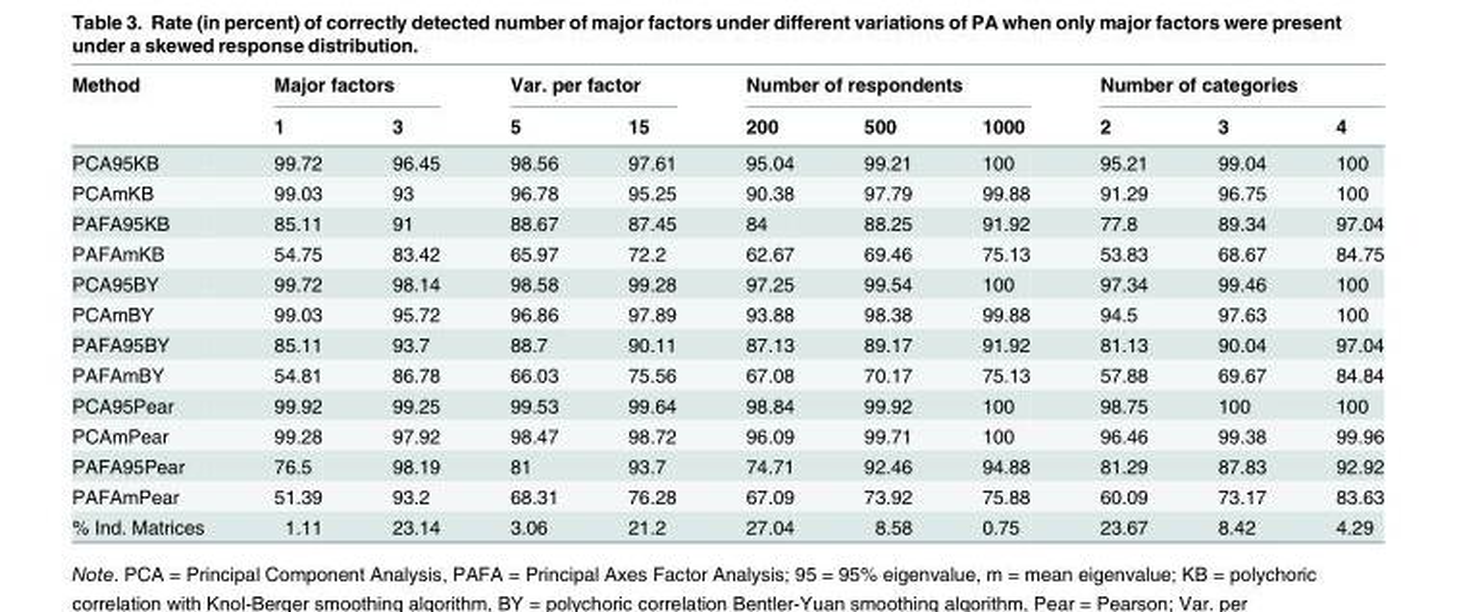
<table><thead><tr><td rowspan="2">Method</td><td colspan="2">Major factors</td><td colspan="2">Var. per factor</td><td colspan="3">Number of respondents</td><td colspan="3">Number of categories</td></tr><tr><td>1</td><td>3</td><td>5</td><td>15</td><td>200</td><td>500</td><td>1000</td><td>2</td><td>3</td><td>4</td></tr></thead><tbody><tr><td>PCA95KB</td><td>99.72</td><td>96.45</td><td>98.56</td><td>97.61</td><td>95.04</td><td>99.21</td><td>100</td><td>95.21</td><td>99.04</td><td>100</td></tr><tr><td>PCAmKB</td><td>99.03</td><td>93</td><td>96.78</td><td>95.25</td><td>90.38</td><td>97.79</td><td>99.88</td><td>91.29</td><td>96.75</td><td>100</td></tr><tr><td>PAFA95KB</td><td>85.11</td><td>91</td><td>88.67</td><td>87.45</td><td>84</td><td>88.25</td><td>91.92</td><td>77.8</td><td>89.34</td><td>97.04</td></tr><tr><td>PAFAmKB</td><td>54.75</td><td>83.42</td><td>65.97</td><td>72.2</td><td>62.67</td><td>69.46</td><td>75.13</td><td>53.83</td><td>68.67</td><td>84.75</td></tr><tr><td>PCA95BY</td><td>99.72</td><td>98.14</td><td>98.58</td><td>99.28</td><td>97.25</td><td>99.54</td><td>100</td><td>97.34</td><td>99.46</td><td>100</td></tr><tr><td>PCAmBY</td><td>99.03</td><td>95.72</td><td>96.86</td><td>97.89</td><td>93.88</td><td>98.38</td><td>99.88</td><td>94.5</td><td>97.63</td><td>100</td></tr><tr><td>PAFA95BY</td><td>85.11</td><td>93.7</td><td>88.7</td><td>90.11</td><td>87.13</td><td>89.17</td><td>91.92</td><td>81.13</td><td>90.04</td><td>97.04</td></tr><tr><td>PAFAmBY</td><td>54.81</td><td>86.78</td><td>66.03</td><td>75.56</td><td>67.08</td><td>70.17</td><td>75.13</td><td>57.88</td><td>69.67</td><td>84.84</td></tr><tr><td>PCA95Pear</td><td>99.92</td><td>99.25</td><td>99.53</td><td>99.64</td><td>98.84</td><td>99.92</td><td>100</td><td>98.75</td><td>100</td><td>100</td></tr><tr><td>PCAmPear</td><td>99.28</td><td>97.92</td><td>98.47</td><td>98.72</td><td>96.09</td><td>99.71</td><td>100</td><td>96.46</td><td>99.38</td><td>99.96</td></tr><tr><td>PAFA95Pear</td><td>76.5</td><td>98.19</td><td>81</td><td>93.7</td><td>74.71</td><td>92.46</td><td>94.88</td><td>81.29</td><td>87.83</td><td>92.92</td></tr><tr><td>PAFAmPear</td><td>51.39</td><td>93.2</td><td>68.31</td><td>76.28</td><td>67.09</td><td>73.92</td><td>75.88</td><td>60.09</td><td>73.17</td><td>83.63</td></tr><tr><td>% Ind. Matrices</td><td>1.11</td><td>23.14</td><td>3.06</td><td>21.2</td><td>27.04</td><td>8.58</td><td>0.75</td><td>23.67</td><td>8.42</td><td>4.29</td></tr></tbody></table>